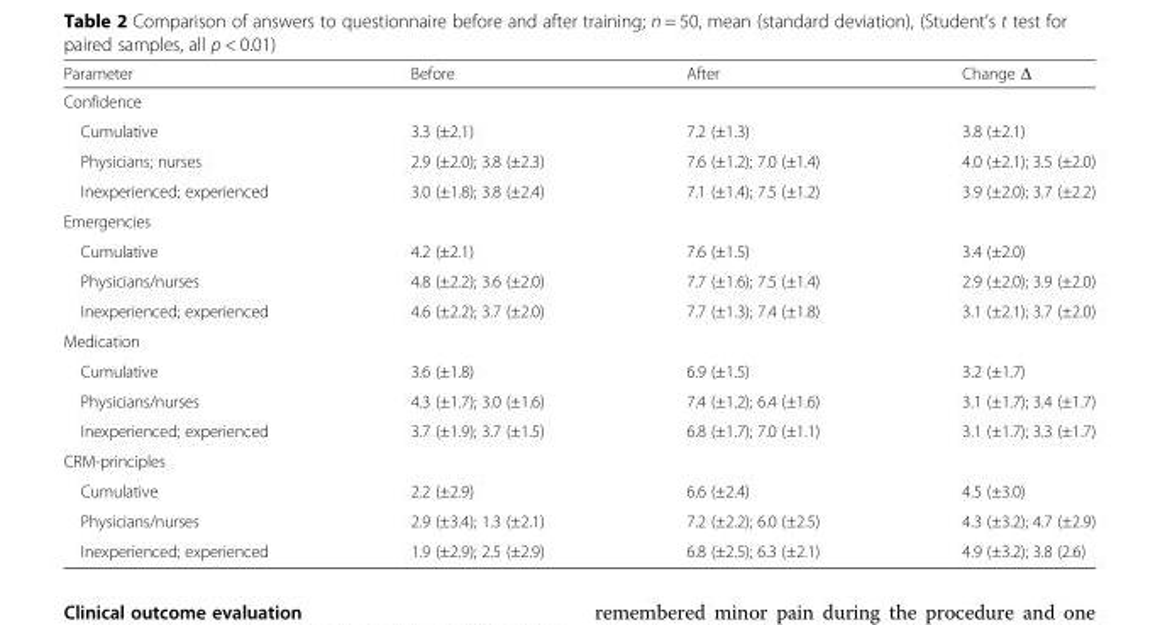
<table><thead><tr><td>Parameter</td><td>Before</td><td>After</td><td>Change Δ</td></tr></thead><tbody><tr><td colspan="4">Confidence</td></tr><tr><td>Cumulative</td><td>3.3 (±2.1)</td><td>7.2 (±1.3)</td><td>3.8 (±2.1)</td></tr><tr><td>Physicians; nurses</td><td>2.9 (±2.0); 3.8 (±2.3)</td><td>7.6 (±1.2); 7.0 (±1.4)</td><td>4.0 (±2.1); 3.5 (±2.0)</td></tr><tr><td>Inexperienced; experienced</td><td>3.0 (±1.8); 3.8 (±2.4)</td><td>7.1 (±1.4); 7.5 (±1.2)</td><td>3.9 (±2.0); 3.7 (±2.2)</td></tr><tr><td colspan="4">Emergencies</td></tr><tr><td>Cumulative</td><td>4.2 (±2.1)</td><td>7.6 (±1.5)</td><td>3.4 (±2.0)</td></tr><tr><td>Physicians/nurses</td><td>4.8 (±2.2); 3.6 (±2.0)</td><td>7.7 (±1.6); 7.5 (±1.4)</td><td>2.9 (±2.0); 3.9 (±2.0)</td></tr><tr><td>Inexperienced; experienced</td><td>4.6 (±2.2); 3.7 (±2.0)</td><td>7.7 (±1.3); 7.4 (±1.8)</td><td>3.1 (±2.1); 3.7 (±2.0)</td></tr><tr><td colspan="4">Medication</td></tr><tr><td>Cumulative</td><td>3.6 (±1.8)</td><td>6.9 (±1.5)</td><td>3.2 (±1.7)</td></tr><tr><td>Physicians/nurses</td><td>4.3 (±1.7); 3.0 (±1.6)</td><td>7.4 (±1.2); 6.4 (±1.6)</td><td>3.1 (±1.7); 3.4 (±1.7)</td></tr><tr><td>Inexperienced; experienced</td><td>3.7 (±1.9); 3.7 (±1.5)</td><td>6.8 (±1.7); 7.0 (±1.1)</td><td>3.1 (±1.7); 3.3 (±1.7)</td></tr><tr><td colspan="4">CRM-principles</td></tr><tr><td>Cumulative</td><td>2.2 (±2.9)</td><td>6.6 (±2.4)</td><td>4.5 (±3.0)</td></tr><tr><td>Physicians/nurses</td><td>2.9 (±3.4); 1.3 (±2.1)</td><td>7.2 (±2.2); 6.0 (±2.5)</td><td>4.3 (±3.2); 4.7 (±2.9)</td></tr><tr><td>Inexperienced; experienced</td><td>1.9 (±2.9); 2.5 (±2.9)</td><td>6.8 (±2.5); 6.3 (±2.1)</td><td>4.9 (±3.2); 3.8 (2.6)</td></tr></tbody></table>